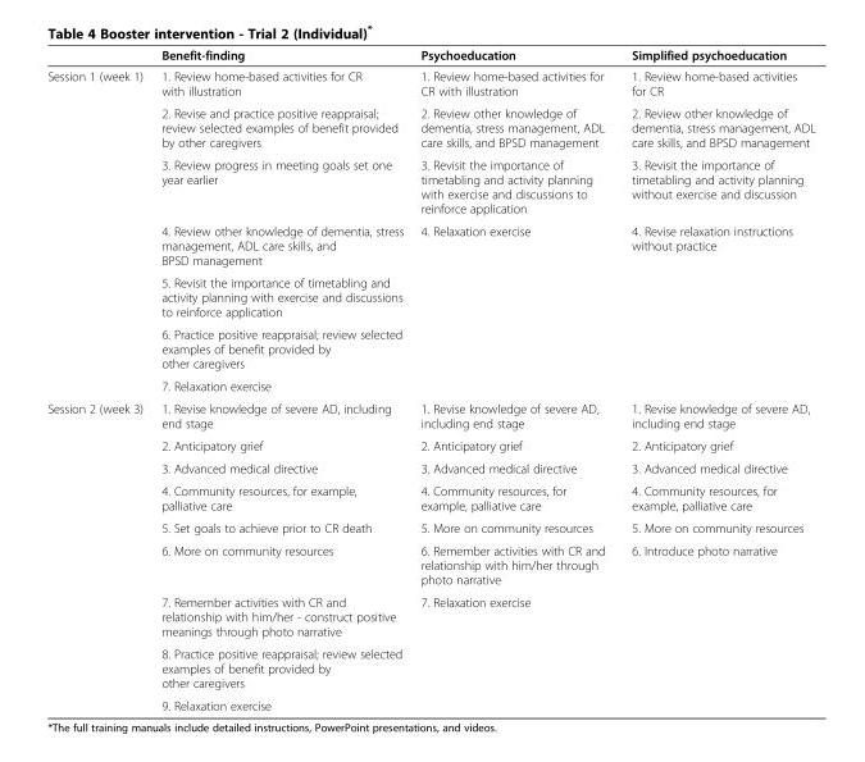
<table><thead><tr><td></td><td>Benefit-finding</td><td>Psychoeducation</td><td>Simplified psychoeducation</td></tr></thead><tbody><tr><td rowspan="7">Session 1 (week 1)</td><td>1. Review home-based activities for CR with illustration</td><td>1. Review home-based activities for CR with illustration</td><td>1. Review home-based activities for CR</td></tr><tr><td>2. Revise and practice positive reappraisal; review selected examples of benefit provided by other caregivers</td><td>2. Review other knowledge of dementia, stress management, ADL care skills, and BPSD management</td><td>2. Review other knowledge of dementia, stress management, ADL care skills, and BPSD management</td></tr><tr><td>3. Review progress in meeting goals set one year earlier</td><td>3. Revisit the importance of timetabling and activity planning with exercise and discussions to reinforce application</td><td>3. Revisit the importance of timetabling and activity planning without exercise and discussion</td></tr><tr><td>4. Review other knowledge of dementia, stress management, ADL care skills, and BPSD management</td><td>4. Relaxation exercise</td><td>4. Revise relaxation instructions without practice</td></tr><tr><td>5. Revisit the importance of timetabling and activity planning with exercise and discussions to reinforce application</td><td></td><td></td></tr><tr><td>6. Practice positive reappraisal; review selected examples of benefit provided by other caregivers</td><td></td><td></td></tr><tr><td>7. Relaxation exercise</td><td></td><td></td></tr><tr><td rowspan="9">Session 2 (week 3)</td><td>1. Revise knowledge of severe AD, including end stage</td><td>1. Revise knowledge of severe AD, including end stage</td><td>1. Revise knowledge of severe AD, including end stage</td></tr><tr><td>2. Anticipatory grief</td><td>2. Anticipatory grief</td><td>2. Anticipatory grief</td></tr><tr><td>3. Advanced medical directive</td><td>3. Advanced medical directive</td><td>3. Advanced medical directive</td></tr><tr><td>4. Community resources, for example, palliative care</td><td>4. Community resources, for example, palliative care</td><td>4. Community resources, for example, palliative care</td></tr><tr><td>5. Set goals to achieve prior to CR death</td><td>5. More on community resources</td><td>5. More on community resources</td></tr><tr><td>6. More on community resources</td><td>6. Remember activities with CR and relationship with him/her through photo narrative</td><td>6. Introduce photo narrative</td></tr><tr><td>7. Remember activities with CR and relationship with him/her - construct positive meanings through photo narrative</td><td>7. Relaxation exercise</td><td></td></tr><tr><td>8. Practice positive reappraisal; review selected examples of benefit provided by other caregivers</td><td></td><td rowspan="2"></td></tr><tr><td>9. Relaxation exercise</td><td></td></tr></tbody></table>